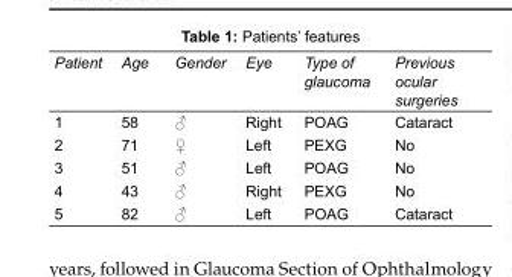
<table><tbody><tr><td>Patient</td><td>Age</td><td>Gender</td><td>Eye</td><td>Type of glaucoma</td><td>Previous ocular surgeries</td></tr><tr><td>1</td><td>58</td><td>♂</td><td>Right</td><td>POAG</td><td>Cataract</td></tr><tr><td>2</td><td>71</td><td>♀</td><td>Left</td><td>PEXG</td><td>No</td></tr><tr><td>3</td><td>51</td><td>♂</td><td>Left</td><td>POAG</td><td>No</td></tr><tr><td>4</td><td>43</td><td>♂</td><td>Right</td><td>PEXG</td><td>No</td></tr><tr><td>5</td><td>82</td><td>♂</td><td>Left</td><td>POAG</td><td>Cataract</td></tr></tbody></table>